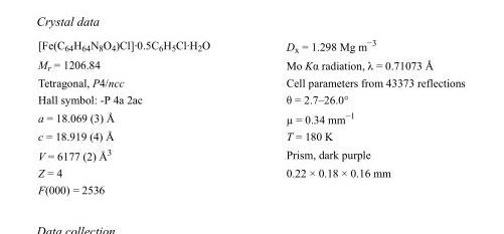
<table><tbody><tr><td>[Fe(C<sub>64</sub>H<sub>64</sub>N<sub>8</sub>O<sub>4</sub>)Cl]·0.5C<sub>6</sub>H<sub>5</sub>Cl·H<sub>2</sub>O</td><td>D<sub>x</sub> = 1.298 Mg m<sup>−3</sup></td></tr><tr><td>M<sub>r</sub> = 1206.84</td><td>Mo Kα radiation, λ = 0.71073 Å</td></tr><tr><td>Tetragonal, P4/ncc</td><td>Cell parameters from 43373 reflections</td></tr><tr><td>Hall symbol: -P 4a 2ac</td><td>θ = 2.7–26.0°</td></tr><tr><td>a = 18.069 (3) Å</td><td>µ = 0.34 mm<sup>−1</sup></td></tr><tr><td>c = 18.919 (4) Å</td><td>T = 180 K</td></tr><tr><td>V = 6177 (2) Å<sup>3</sup></td><td>Prism, dark purple</td></tr><tr><td>Z = 4</td><td>0.22 × 0.18 × 0.16 mm</td></tr><tr><td>F(000) = 2536</td><td></td></tr></tbody></table>